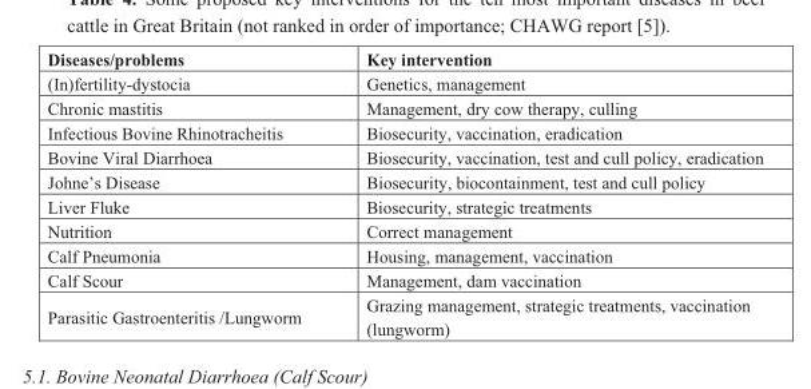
<table><thead><tr><td>Diseases/problems</td><td>Key intervention</td></tr></thead><tbody><tr><td>(In)fertility-dystocia</td><td>Genetics, management</td></tr><tr><td>Chronic mastitis</td><td>Management, dry cow therapy, culling</td></tr><tr><td>Infectious Bovine Rhinotracheitis</td><td>Biosecurity, vaccination, eradication</td></tr><tr><td>Bovine Viral Diarrhoea</td><td>Biosecurity, vaccination, test and cull policy, eradication</td></tr><tr><td>Johne’s Disease</td><td>Biosecurity, biocontainment, test and cull policy</td></tr><tr><td>Liver Fluke</td><td>Biosecurity, strategic treatments</td></tr><tr><td>Nutrition</td><td>Correct management</td></tr><tr><td>Calf Pneumonia</td><td>Housing, management, vaccination</td></tr><tr><td>Calf Scour</td><td>Management, dam vaccination</td></tr><tr><td>Parasitic Gastroenteritis /Lungworm</td><td>Grazing management, strategic treatments, vaccination (lungworm)</td></tr></tbody></table>